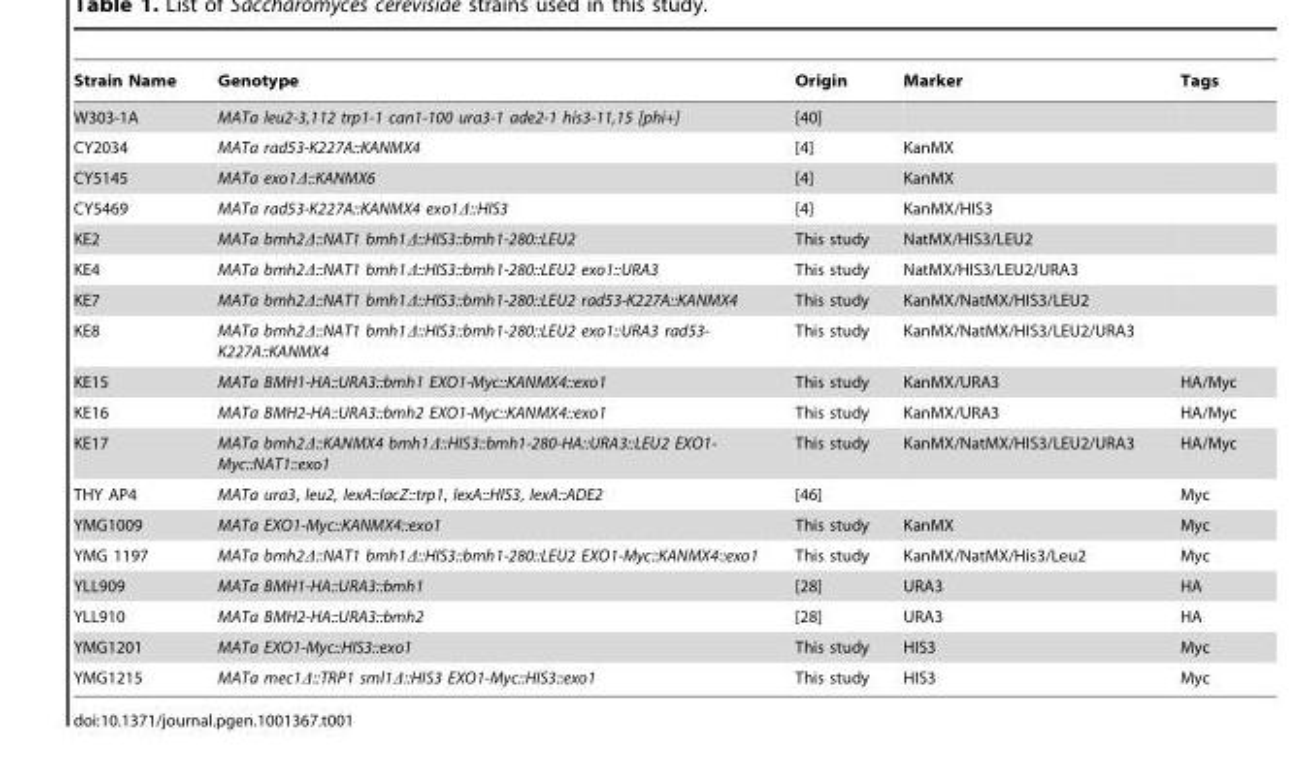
<table><thead><tr><td>Strain Name</td><td>Genotype</td><td>Origin</td><td>Marker</td><td>Tags</td></tr></thead><tbody><tr><td>W303-1A</td><td>MATa leu2-3,112 trp1-1 can1-100 ura3-1 ade2-1 his3-11,15 [phi+]</td><td>[40]</td><td></td><td></td></tr><tr><td>CY2034</td><td>MATa rad53-K227A::KANMX4</td><td>[4]</td><td>KanMX</td><td></td></tr><tr><td>CY5145</td><td>MATa exo1Δ::KANMX6</td><td>[4]</td><td>KanMX</td><td></td></tr><tr><td>CY5469</td><td>MATa rad53-K227A::KANMX4 exo1Δ::HIS3</td><td>[4]</td><td>KanMX/HIS3</td><td></td></tr><tr><td>KE2</td><td>MATa bmh2Δ::NAT1 bmh1Δ::HIS3::bmh1-280::LEU2</td><td>This study</td><td>NatMX/HIS3/LEU2</td><td></td></tr><tr><td>KE4</td><td>MATa bmh2Δ::NAT1 bmh1Δ::HIS3::bmh1-280::LEU2 exo1::URA3</td><td>This study</td><td>NatMX/HIS3/LEU2/URA3</td><td></td></tr><tr><td>KE7</td><td>MATa bmh2Δ::NAT1 bmh1Δ::HIS3::bmh1-280::LEU2 rad53-K227A::KANMX4</td><td>This study</td><td>KanMX/NatMX/HIS3/LEU2</td><td></td></tr><tr><td>KE8</td><td>MATa bmh2Δ::NAT1 bmh1Δ::HIS3::bmh1-280::LEU2 exo1::URA3 rad53- K227A::KANMX4</td><td>This study</td><td>KanMX/NatMX/HIS3/LEU2/URA3</td><td></td></tr><tr><td>KE15</td><td>MATa BMH1-HA::URA3::bmh1 EXO1-Myc::KANMX4::exo1</td><td>This study</td><td>KanMX/URA3</td><td>HA/Myc</td></tr><tr><td>KE16</td><td>MATa BMH2-HA::URA3::bmh2 EXO1-Myc::KANMX4::exo1</td><td>This study</td><td>KanMX/URA3</td><td>HA/Myc</td></tr><tr><td>KE17</td><td>MATa bmh2Δ::KANMX4 bmh1Δ::HIS3::bmh1-280-HA::URA3::LEU2 EXO1- Myc::NAT1::exo1</td><td>This study</td><td>KanMX/NatMX/HIS3/LEU2/URA3</td><td>HA/Myc</td></tr><tr><td>THY AP4</td><td>MATa ura3, leu2, lexA::lacZ::trp1, lexA::HIS3, lexA::ADE2</td><td>[46]</td><td></td><td>Myc</td></tr><tr><td>YMG1009</td><td>MATa EXO1-Myc::KANMX4::exo1</td><td>This study</td><td>KanMX</td><td>Myc</td></tr><tr><td>YMG 1197</td><td>MATa bmh2Δ::NAT1 bmh1Δ::HIS3::bmh1-280::LEU2 EXO1-Myc::KANMX4::exo1</td><td>This study</td><td>KanMX/NatMX/His3/Leu2</td><td>Myc</td></tr><tr><td>YLL909</td><td>MATa BMH1-HA::URA3::bmh1</td><td>[28]</td><td>URA3</td><td>HA</td></tr><tr><td>YLL910</td><td>MATa BMH2-HA::URA3::bmh2</td><td>[28]</td><td>URA3</td><td>HA</td></tr><tr><td>YMG1201</td><td>MATa EXO1-Myc::HIS3::exo1</td><td>This study</td><td>HIS3</td><td>Myc</td></tr><tr><td>YMG1215</td><td>MATa mec1Δ::TRP1 sml1Δ::HIS3 EXO1-Myc::HIS3::exo1</td><td>This study</td><td>HIS3</td><td>Myc</td></tr></tbody></table>